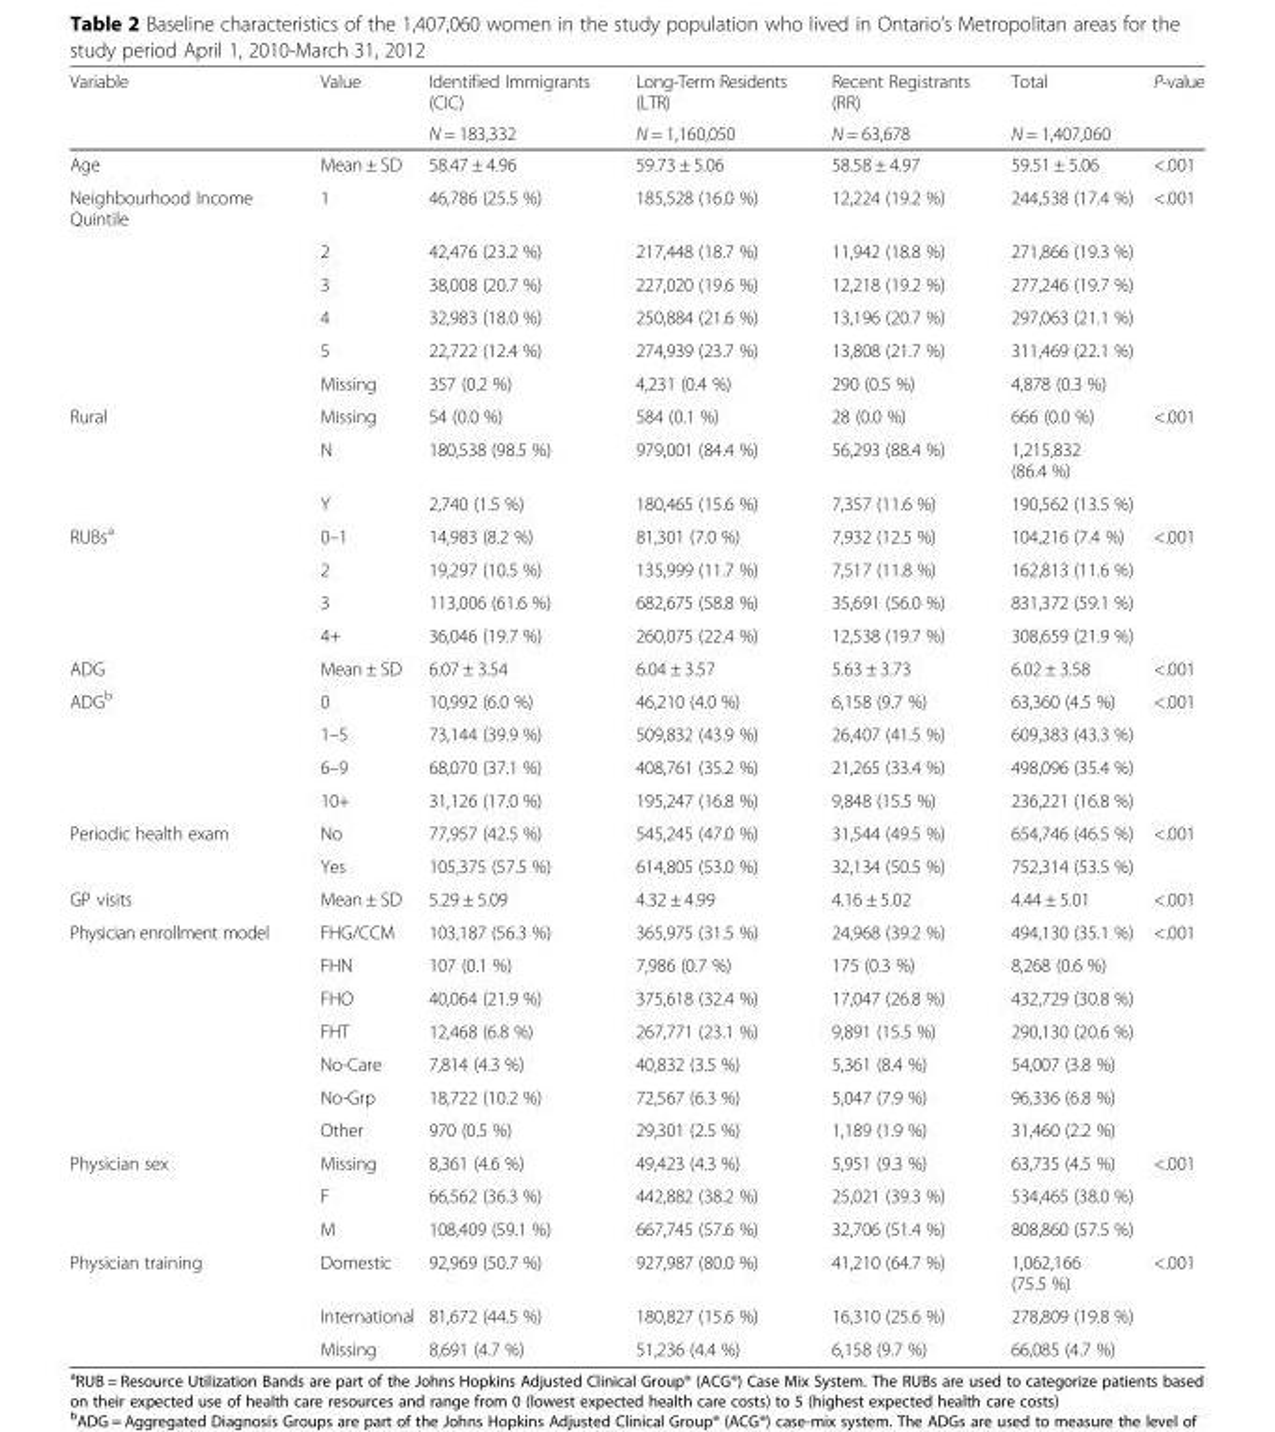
<table><thead><tr><td rowspan="2">Variable</td><td rowspan="2">Value</td><td rowspan="2">Identified Immigrants (CIC) N = 183,332</td><td rowspan="2">Long-Term Residents (LTR) N = 1,160,050</td><td rowspan="2">Recent Registrants (RR) N = 63,678</td><td rowspan="2">Total N = 1,407,060</td><td rowspan="2">P-value</td></tr><tr></tr></thead><tbody><tr><td>Age</td><td>Mean ± SD</td><td>58.47 ± 4.96</td><td>59.73 ± 5.06</td><td>58.58 ± 4.97</td><td>59.51 ± 5.06</td><td>&lt;.001</td></tr><tr><td rowspan="6">Neighbourhood Income Quintile</td><td>1</td><td>46,786 (25.5 %)</td><td>185,528 (16.0 %)</td><td>12,224 (19.2 %)</td><td>244,538 (17.4 %)</td><td>&lt;.001</td></tr><tr><td>2</td><td>42,476 (23.2 %)</td><td>217,448 (18.7 %)</td><td>11,942 (18.8 %)</td><td>271,866 (19.3 %)</td><td></td></tr><tr><td>3</td><td>38,008 (20.7 %)</td><td>227,020 (19.6 %)</td><td>12,218 (19.2 %)</td><td>277,246 (19.7 %)</td><td></td></tr><tr><td>4</td><td>32,983 (18.0 %)</td><td>250,884 (21.6 %)</td><td>13,196 (20.7 %)</td><td>297,063 (21.1 %)</td><td></td></tr><tr><td>5</td><td>22,722 (12.4 %)</td><td>274,939 (23.7 %)</td><td>13,808 (21.7 %)</td><td>311,469 (22.1 %)</td><td></td></tr><tr><td>Missing</td><td>357 (0.2 %)</td><td>4,231 (0.4 %)</td><td>290 (0.5 %)</td><td>4,878 (0.3 %)</td><td></td></tr><tr><td rowspan="3">Rural</td><td>Missing</td><td>54 (0.0 %)</td><td>584 (0.1 %)</td><td>28 (0.0 %)</td><td>666 (0.0 %)</td><td>&lt;.001</td></tr><tr><td>N</td><td>180,538 (98.5 %)</td><td>979,001 (84.4 %)</td><td>56,293 (88.4 %)</td><td>1,215,832 (86.4 %)</td><td></td></tr><tr><td>Y</td><td>2,740 (1.5 %)</td><td>180,465 (15.6 %)</td><td>7,357 (11.6 %)</td><td>190,562 (13.5 %)</td><td></td></tr><tr><td rowspan="4">RUBs<sup>a</sup></td><td>0–1</td><td>14,983 (8.2 %)</td><td>81,301 (7.0 %)</td><td>7,932 (12.5 %)</td><td>104,216 (7.4 %)</td><td>&lt;.001</td></tr><tr><td>2</td><td>19,297 (10.5 %)</td><td>135,999 (11.7 %)</td><td>7,517 (11.8 %)</td><td>162,813 (11.6 %)</td><td></td></tr><tr><td>3</td><td>113,006 (61.6 %)</td><td>682,675 (58.8 %)</td><td>35,691 (56.0 %)</td><td>831,372 (59.1 %)</td><td></td></tr><tr><td>4+</td><td>36,046 (19.7 %)</td><td>260,075 (22.4 %)</td><td>12,538 (19.7 %)</td><td>308,659 (21.9 %)</td><td></td></tr><tr><td>ADG</td><td>Mean ± SD</td><td>6.07 ± 3.54</td><td>6.04 ± 3.57</td><td>5.63 ± 3.73</td><td>6.02 ± 3.58</td><td>&lt;.001</td></tr><tr><td rowspan="4">ADG<sup>b</sup></td><td>0</td><td>10,992 (6.0 %)</td><td>46,210 (4.0 %)</td><td>6,158 (9.7 %)</td><td>63,360 (4.5 %)</td><td>&lt;.001</td></tr><tr><td>1–5</td><td>73,144 (39.9 %)</td><td>509,832 (43.9 %)</td><td>26,407 (41.5 %)</td><td>609,383 (43.3 %)</td><td></td></tr><tr><td>6–9</td><td>68,070 (37.1 %)</td><td>408,761 (35.2 %)</td><td>21,265 (33.4 %)</td><td>498,096 (35.4 %)</td><td></td></tr><tr><td>10+</td><td>31,126 (17.0 %)</td><td>195,247 (16.8 %)</td><td>9,848 (15.5 %)</td><td>236,221 (16.8 %)</td><td></td></tr><tr><td rowspan="2">Periodic health exam</td><td>No</td><td>77,957 (42.5 %)</td><td>545,245 (47.0 %)</td><td>31,544 (49.5 %)</td><td>654,746 (46.5 %)</td><td>&lt;.001</td></tr><tr><td>Yes</td><td>105,375 (57.5 %)</td><td>614,805 (53.0 %)</td><td>32,134 (50.5 %)</td><td>752,314 (53.5 %)</td><td></td></tr><tr><td>GP visits</td><td>Mean ± SD</td><td>5.29 ± 5.09</td><td>4.32 ± 4.99</td><td>4.16 ± 5.02</td><td>4.44 ± 5.01</td><td>&lt;.001</td></tr><tr><td rowspan="7">Physician enrollment model</td><td>FHG/CCM</td><td>103,187 (56.3 %)</td><td>365,975 (31.5 %)</td><td>24,968 (39.2 %)</td><td>494,130 (35.1 %)</td><td>&lt;.001</td></tr><tr><td>FHN</td><td>107 (0.1 %)</td><td>7,986 (0.7 %)</td><td>175 (0.3 %)</td><td>8,268 (0.6 %)</td><td></td></tr><tr><td>FHO</td><td>40,064 (21.9 %)</td><td>375,618 (32.4 %)</td><td>17,047 (26.8 %)</td><td>432,729 (30.8 %)</td><td></td></tr><tr><td>FHT</td><td>12,468 (6.8 %)</td><td>267,771 (23.1 %)</td><td>9,891 (15.5 %)</td><td>290,130 (20.6 %)</td><td></td></tr><tr><td>No-Care</td><td>7,814 (4.3 %)</td><td>40,832 (3.5 %)</td><td>5,361 (8.4 %)</td><td>54,007 (3.8 %)</td><td></td></tr><tr><td>No-Grp</td><td>18,722 (10.2 %)</td><td>72,567 (6.3 %)</td><td>5,047 (7.9 %)</td><td>96,336 (6.8 %)</td><td></td></tr><tr><td>Other</td><td>970 (0.5 %)</td><td>29,301 (2.5 %)</td><td>1,189 (1.9 %)</td><td>31,460 (2.2 %)</td><td></td></tr><tr><td rowspan="3">Physician sex</td><td>Missing</td><td>8,361 (4.6 %)</td><td>49,423 (4.3 %)</td><td>5,951 (9.3 %)</td><td>63,735 (4.5 %)</td><td>&lt;.001</td></tr><tr><td>F</td><td>66,562 (36.3 %)</td><td>442,882 (38.2 %)</td><td>25,021 (39.3 %)</td><td>534,465 (38.0 %)</td><td></td></tr><tr><td>M</td><td>108,409 (59.1 %)</td><td>667,745 (57.6 %)</td><td>32,706 (51.4 %)</td><td>808,860 (57.5 %)</td><td></td></tr><tr><td rowspan="3">Physician training</td><td>Domestic</td><td>92,969 (50.7 %)</td><td>927,987 (80.0 %)</td><td>41,210 (64.7 %)</td><td>1,062,166 (75.5 %)</td><td>&lt;.001</td></tr><tr><td>International</td><td>81,672 (44.5 %)</td><td>180,827 (15.6 %)</td><td>16,310 (25.6 %)</td><td>278,809 (19.8 %)</td><td></td></tr><tr><td>Missing</td><td>8,691 (4.7 %)</td><td>51,236 (4.4 %)</td><td>6,158 (9.7 %)</td><td>66,085 (4.7 %)</td><td></td></tr></tbody></table>